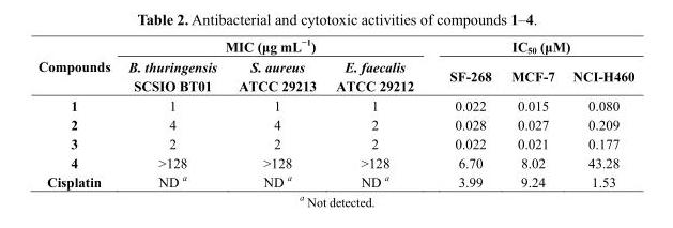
<table><thead><tr><td rowspan="2">Compounds</td><td colspan="3">MIC (μg mL<sup>−1</sup>)</td><td colspan="3">IC<sub>50</sub> (μM)</td></tr><tr><td>B. thuringensis SCSIO BT01</td><td>S. aureus ATCC 29213</td><td>E. faecalis ATCC 29212</td><td>SF-268</td><td>MCF-7</td><td>NCI-H460</td></tr></thead><tbody><tr><td>1</td><td>1</td><td>1</td><td>1</td><td>0.022</td><td>0.015</td><td>0.080</td></tr><tr><td>2</td><td>4</td><td>4</td><td>2</td><td>0.028</td><td>0.027</td><td>0.209</td></tr><tr><td>3</td><td>2</td><td>2</td><td>2</td><td>0.022</td><td>0.021</td><td>0.177</td></tr><tr><td>4</td><td>&gt;128</td><td>&gt;128</td><td>&gt;128</td><td>6.70</td><td>8.02</td><td>43.28</td></tr><tr><td>Cisplatin</td><td>ND <sup>a</sup></td><td>ND <sup>a</sup></td><td>ND <sup>a</sup></td><td>3.99</td><td>9.24</td><td>1.53</td></tr></tbody></table>